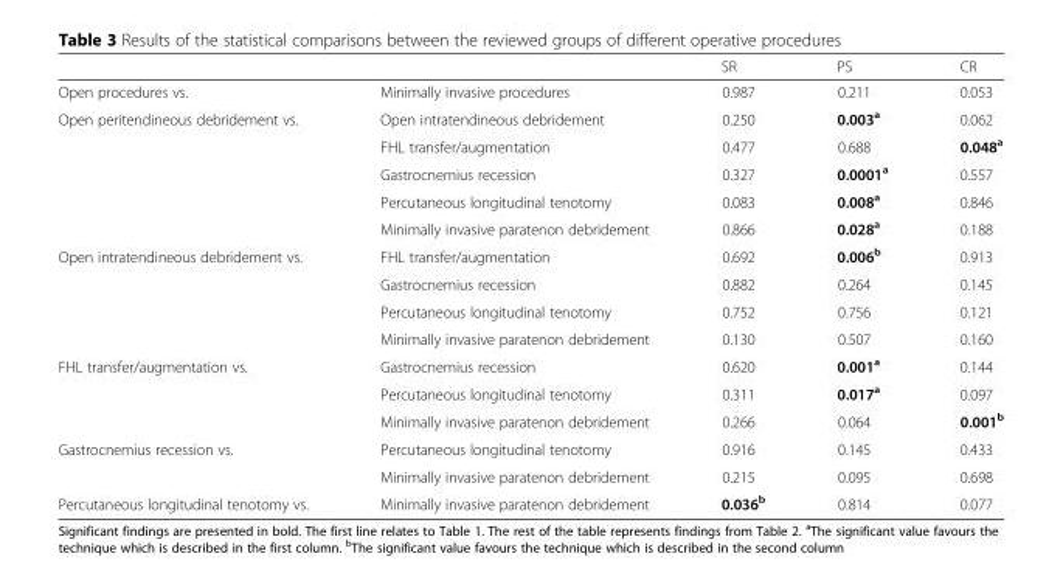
<table><thead><tr><td></td><td></td><td>SR</td><td>PS</td><td>CR</td></tr></thead><tbody><tr><td>Open procedures vs.</td><td>Minimally invasive procedures</td><td>0.987</td><td>0.211</td><td>0.053</td></tr><tr><td rowspan="5">Open peritendineous debridement vs.</td><td>Open intratendineous debridement</td><td>0.250</td><td>0.003<sup>a</sup></td><td>0.062</td></tr><tr><td>FHL transfer/augmentation</td><td>0.477</td><td>0.688</td><td>0.048<sup>a</sup></td></tr><tr><td>Gastrocnemius recession</td><td>0.327</td><td>0.0001<sup>a</sup></td><td>0.557</td></tr><tr><td>Percutaneous longitudinal tenotomy</td><td>0.083</td><td>0.008<sup>a</sup></td><td>0.846</td></tr><tr><td>Minimally invasive paratenon debridement</td><td>0.866</td><td>0.028<sup>a</sup></td><td>0.188</td></tr><tr><td rowspan="4">Open intratendineous debridement vs.</td><td>FHL transfer/augmentation</td><td>0.692</td><td>0.006<sup>b</sup></td><td>0.913</td></tr><tr><td>Gastrocnemius recession</td><td>0.882</td><td>0.264</td><td>0.145</td></tr><tr><td>Percutaneous longitudinal tenotomy</td><td>0.752</td><td>0.756</td><td>0.121</td></tr><tr><td>Minimally invasive paratenon debridement</td><td>0.130</td><td>0.507</td><td>0.160</td></tr><tr><td rowspan="3">FHL transfer/augmentation vs.</td><td>Gastrocnemius recession</td><td>0.620</td><td>0.001<sup>a</sup></td><td>0.144</td></tr><tr><td>Percutaneous longitudinal tenotomy</td><td>0.311</td><td>0.017<sup>a</sup></td><td>0.097</td></tr><tr><td>Minimally invasive paratenon debridement</td><td>0.266</td><td>0.064</td><td>0.001<sup>b</sup></td></tr><tr><td rowspan="2">Gastrocnemius recession vs.</td><td>Percutaneous longitudinal tenotomy</td><td>0.916</td><td>0.145</td><td>0.433</td></tr><tr><td>Minimally invasive paratenon debridement</td><td>0.215</td><td>0.095</td><td>0.698</td></tr><tr><td>Percutaneous longitudinal tenotomy vs.</td><td>Minimally invasive paratenon debridement</td><td>0.036<sup>b</sup></td><td>0.814</td><td>0.077</td></tr></tbody></table>